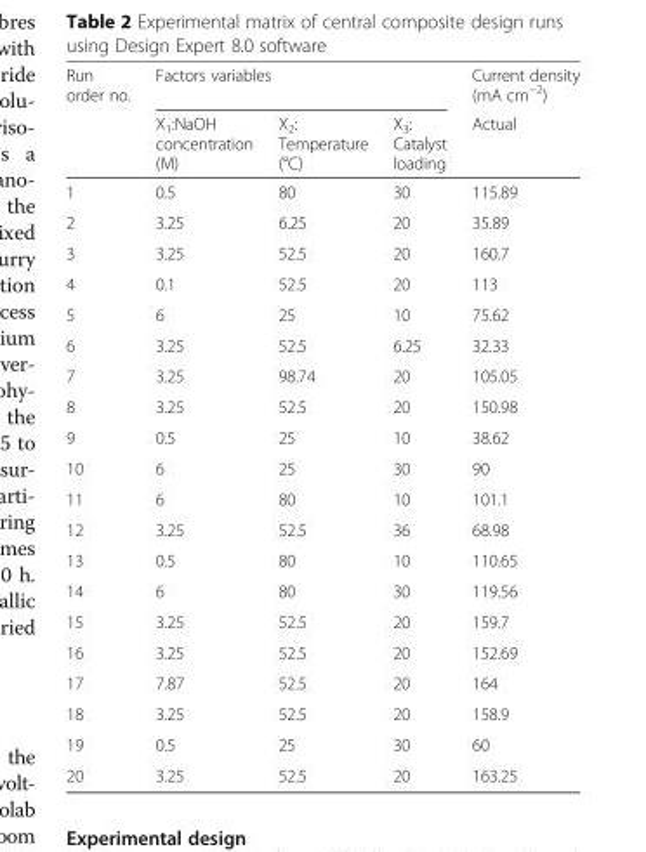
<table><thead><tr><td rowspan="2">Run order no.</td><td colspan="3">Factors variables</td><td rowspan="2">Current density (mA cm<sup>−2</sup>) Actual</td></tr><tr><td>X<sub>1</sub>:NaOH concentration (M)</td><td>X<sub>2</sub>: Temperature (°C)</td><td>X<sub>3</sub>: Catalyst loading</td></tr></thead><tbody><tr><td>1</td><td>0.5</td><td>80</td><td>30</td><td>115.89</td></tr><tr><td>2</td><td>3.25</td><td>6.25</td><td>20</td><td>35.89</td></tr><tr><td>3</td><td>3.25</td><td>52.5</td><td>20</td><td>160.7</td></tr><tr><td>4</td><td>0.1</td><td>52.5</td><td>20</td><td>113</td></tr><tr><td>5</td><td>6</td><td>25</td><td>10</td><td>75.62</td></tr><tr><td>6</td><td>3.25</td><td>52.5</td><td>6.25</td><td>32.33</td></tr><tr><td>7</td><td>3.25</td><td>98.74</td><td>20</td><td>105.05</td></tr><tr><td>8</td><td>3.25</td><td>52.5</td><td>20</td><td>150.98</td></tr><tr><td>9</td><td>0.5</td><td>25</td><td>10</td><td>38.62</td></tr><tr><td>10</td><td>6</td><td>25</td><td>30</td><td>90</td></tr><tr><td>11</td><td>6</td><td>80</td><td>10</td><td>101.1</td></tr><tr><td>12</td><td>3.25</td><td>52.5</td><td>36</td><td>68.98</td></tr><tr><td>13</td><td>0.5</td><td>80</td><td>10</td><td>110.65</td></tr><tr><td>14</td><td>6</td><td>80</td><td>30</td><td>119.56</td></tr><tr><td>15</td><td>3.25</td><td>52.5</td><td>20</td><td>159.7</td></tr><tr><td>16</td><td>3.25</td><td>52.5</td><td>20</td><td>152.69</td></tr><tr><td>17</td><td>7.87</td><td>52.5</td><td>20</td><td>164</td></tr><tr><td>18</td><td>3.25</td><td>52.5</td><td>20</td><td>158.9</td></tr><tr><td>19</td><td>0.5</td><td>25</td><td>30</td><td>60</td></tr><tr><td>20</td><td>3.25</td><td>52.5</td><td>20</td><td>163.25</td></tr></tbody></table>